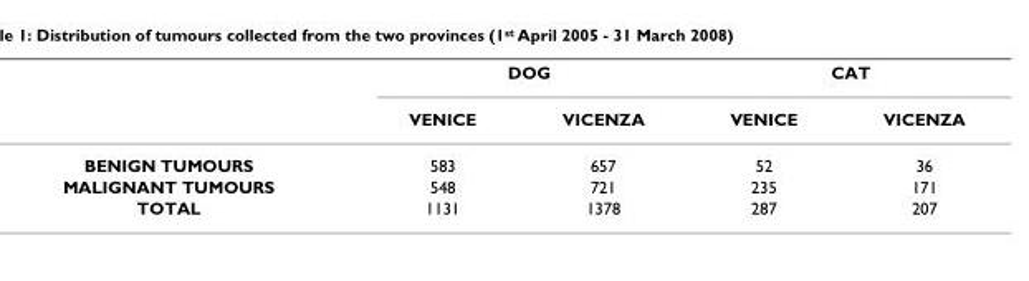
<table><thead><tr><td rowspan="2"></td><td colspan="2">DOG</td><td colspan="2">CAT</td></tr><tr><td>VENICE</td><td>VICENZA</td><td>VENICE</td><td>VICENZA</td></tr></thead><tbody><tr><td>BENIGN TUMOURS</td><td>583</td><td>657</td><td>52</td><td>36</td></tr><tr><td>MALIGNANT TUMOURS</td><td>548</td><td>721</td><td>235</td><td>171</td></tr><tr><td>TOTAL</td><td>1131</td><td>1378</td><td>287</td><td>207</td></tr></tbody></table>